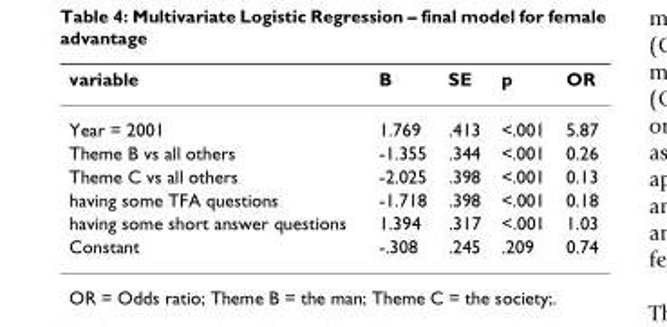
<table><thead><tr><td>variable</td><td>B</td><td>SE</td><td>p</td><td>OR</td></tr></thead><tbody><tr><td>Year = 2001</td><td>1.769</td><td>.413</td><td>&lt;.001</td><td>5.87</td></tr><tr><td>Theme B vs all others</td><td>-1.355</td><td>.344</td><td>&lt;.001</td><td>0.26</td></tr><tr><td>Theme C vs all others</td><td>-2.025</td><td>.398</td><td>&lt;.001</td><td>0.13</td></tr><tr><td>having some TFA questions</td><td>-1.718</td><td>.398</td><td>&lt;.001</td><td>0.18</td></tr><tr><td>having some short answer questions</td><td>1.394</td><td>.317</td><td>&lt;.001</td><td>1.03</td></tr><tr><td>Constant</td><td>-.308</td><td>.245</td><td>.209</td><td>0.74</td></tr></tbody></table>